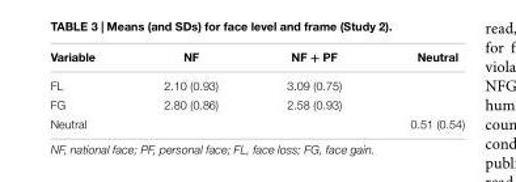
<table><thead><tr><td>Variable</td><td>NF</td><td>NF + PF</td><td>Neutral</td></tr></thead><tbody><tr><td>FL</td><td>2.10 (0.93)</td><td>3.09 (0.75)</td><td></td></tr><tr><td>FG</td><td>2.80 (0.86)</td><td>2.58 (0.93)</td><td></td></tr><tr><td>Neutral</td><td></td><td></td><td>0.51 (0.54)</td></tr></tbody></table>